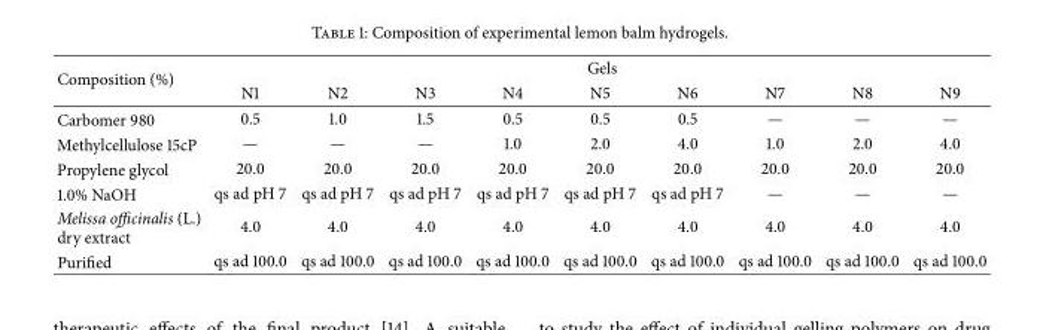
<table><thead><tr><td rowspan="2">Composition (%)</td><td colspan="9">Gels</td></tr><tr><td>N1</td><td>N2</td><td>N3</td><td>N4</td><td>N5</td><td>N6</td><td>N7</td><td>N8</td><td>N9</td></tr></thead><tbody><tr><td>Carbomer 980</td><td>0.5</td><td>1.0</td><td>1.5</td><td>0.5</td><td>0.5</td><td>0.5</td><td>—</td><td>—</td><td>—</td></tr><tr><td>Methylcellulose 15cP</td><td>—</td><td>—</td><td>—</td><td>1.0</td><td>2.0</td><td>4.0</td><td>1.0</td><td>2.0</td><td>4.0</td></tr><tr><td>Propylene glycol</td><td>20.0</td><td>20.0</td><td>20.0</td><td>20.0</td><td>20.0</td><td>20.0</td><td>20.0</td><td>20.0</td><td>20.0</td></tr><tr><td>1.0% NaOH</td><td>qs ad pH 7</td><td>qs ad pH 7</td><td>qs ad pH 7</td><td>qs ad pH 7</td><td>qs ad pH 7</td><td>qs ad pH 7</td><td>—</td><td>—</td><td>—</td></tr><tr><td>Melissa officinalis (L.) dry extract</td><td>4.0</td><td>4.0</td><td>4.0</td><td>4.0</td><td>4.0</td><td>4.0</td><td>4.0</td><td>4.0</td><td>4.0</td></tr><tr><td>Purified</td><td>qs ad 100.0</td><td>qs ad 100.0</td><td>qs ad 100.0</td><td>qs ad 100.0</td><td>qs ad 100.0</td><td>qs ad 100.0</td><td>qs ad 100.0</td><td>qs ad 100.0</td><td>qs ad 100.0</td></tr></tbody></table>